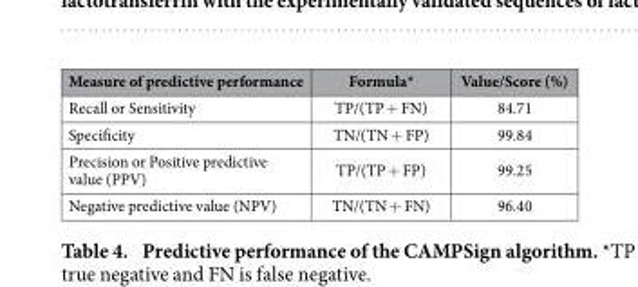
<table><thead><tr><td>Measure of predictive performance</td><td>Formula*</td><td>Value/Score (%)</td></tr></thead><tbody><tr><td>Recall or Sensitivity</td><td>TP/(TP + FN)</td><td>84.71</td></tr><tr><td>Specificity</td><td>TN/(TN + FP)</td><td>99.84</td></tr><tr><td>Precision or Positive predictive value (PPV)</td><td>TP/(TP + FP)</td><td>99.25</td></tr><tr><td>Negative predictive value (NPV)</td><td>TN/(TN + FN)</td><td>96.40</td></tr></tbody></table>